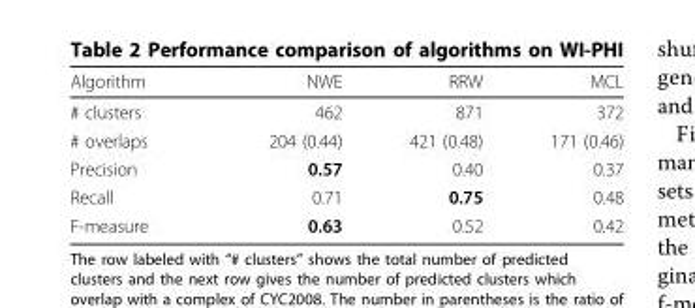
<table><thead><tr><td>Algorithm</td><td>NWE</td><td>RRW</td><td>MCL</td></tr></thead><tbody><tr><td># clusters</td><td>462</td><td>871</td><td>372</td></tr><tr><td># overlaps</td><td>204 (0.44)</td><td>421 (0.48)</td><td>171 (0.46)</td></tr><tr><td>Precision</td><td>0.57</td><td>0.40</td><td>0.37</td></tr><tr><td>Recall</td><td>0.71</td><td>0.75</td><td>0.48</td></tr><tr><td>F-measure</td><td>0.63</td><td>0.52</td><td>0.42</td></tr></tbody></table>